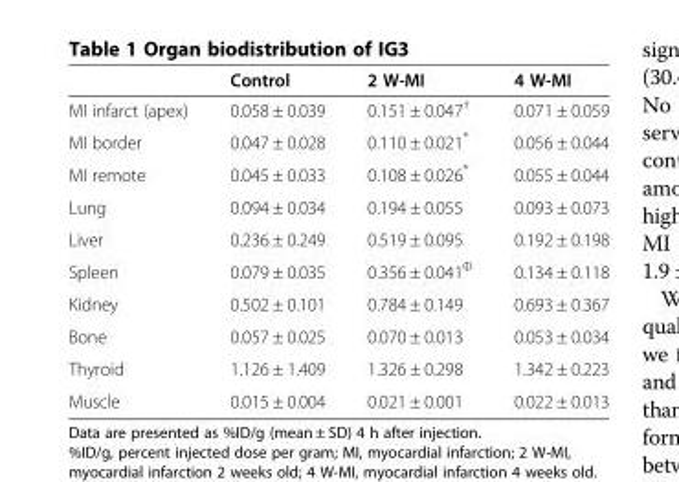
<table><thead><tr><td></td><td>Control</td><td>2 W-MI</td><td>4 W-MI</td></tr></thead><tbody><tr><td>MI infarct (apex)</td><td>0.058 ± 0.039</td><td>0.151 ± 0.047<sup>†</sup></td><td>0.071 ± 0.059</td></tr><tr><td>MI border</td><td>0.047 ± 0.028</td><td>0.110 ± 0.021*</td><td>0.056 ± 0.044</td></tr><tr><td>MI remote</td><td>0.045 ± 0.033</td><td>0.108 ± 0.026*</td><td>0.055 ± 0.044</td></tr><tr><td>Lung</td><td>0.094 ± 0.034</td><td>0.194 ± 0.055</td><td>0.093 ± 0.073</td></tr><tr><td>Liver</td><td>0.236 ± 0.249</td><td>0.519 ± 0.095</td><td>0.192 ± 0.198</td></tr><tr><td>Spleen</td><td>0.079 ± 0.035</td><td>0.356 ± 0.041<sup>Φ</sup></td><td>0.134 ± 0.118</td></tr><tr><td>Kidney</td><td>0.502 ± 0.101</td><td>0.784 ± 0.149</td><td>0.693 ± 0.367</td></tr><tr><td>Bone</td><td>0.057 ± 0.025</td><td>0.070 ± 0.013</td><td>0.053 ± 0.034</td></tr><tr><td>Thyroid</td><td>1.126 ± 1.409</td><td>1.326 ± 0.298</td><td>1.342 ± 0.223</td></tr><tr><td>Muscle</td><td>0.015 ± 0.004</td><td>0.021 ± 0.001</td><td>0.022 ± 0.013</td></tr></tbody></table>